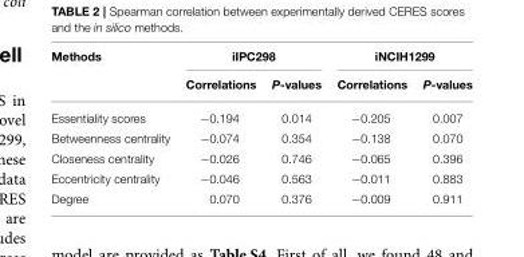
<table><thead><tr><td rowspan="2">Methods</td><td colspan="2">iIPC298</td><td colspan="2">iNCIH1299</td></tr><tr><td>Correlations</td><td>P-values</td><td>Correlations</td><td>P-values</td></tr></thead><tbody><tr><td>Essentiality scores</td><td>−0.194</td><td>0.014</td><td>−0.205</td><td>0.007</td></tr><tr><td>Betweenness centrality</td><td>−0.074</td><td>0.354</td><td>−0.138</td><td>0.070</td></tr><tr><td>Closeness centrality</td><td>−0.026</td><td>0.746</td><td>−0.065</td><td>0.396</td></tr><tr><td>Eccentricity centrality</td><td>−0.046</td><td>0.563</td><td>−0.011</td><td>0.883</td></tr><tr><td>Degree</td><td>0.070</td><td>0.376</td><td>−0.009</td><td>0.911</td></tr></tbody></table>